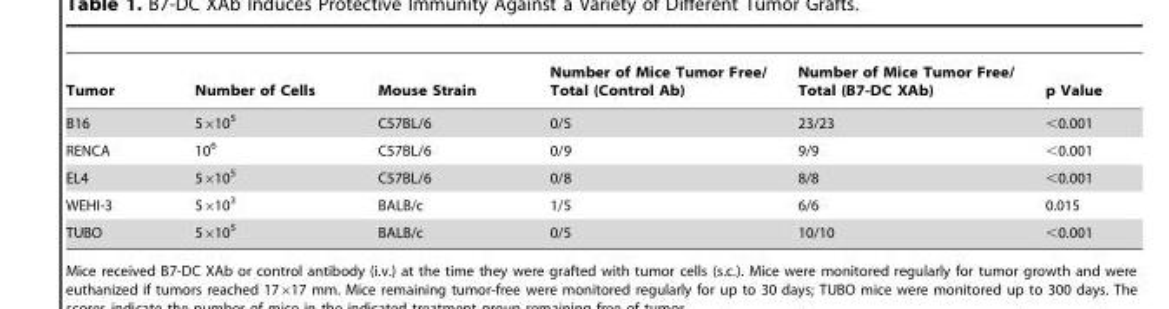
<table><thead><tr><td>Tumor</td><td>Number of Cells</td><td>Mouse Strain</td><td>Number of Mice Tumor Free/ Total (Control Ab)</td><td>Number of Mice Tumor Free/ Total (B7-DC XAb)</td><td>p Value</td></tr></thead><tbody><tr><td>B16</td><td>5×105</td><td>C57BL/6</td><td>0/5</td><td>23/23</td><td>&lt;0.001</td></tr><tr><td>RENCA</td><td>106</td><td>C57BL/6</td><td>0/9</td><td>9/9</td><td>&lt;0.001</td></tr><tr><td>EL4</td><td>5×105</td><td>C57BL/6</td><td>0/8</td><td>8/8</td><td>&lt;0.001</td></tr><tr><td>WEHI-3</td><td>5×103</td><td>BALB/c</td><td>1/5</td><td>6/6</td><td>0.015</td></tr><tr><td>TUBO</td><td>5×105</td><td>BALB/c</td><td>0/5</td><td>10/10</td><td>&lt;0.001</td></tr></tbody></table>